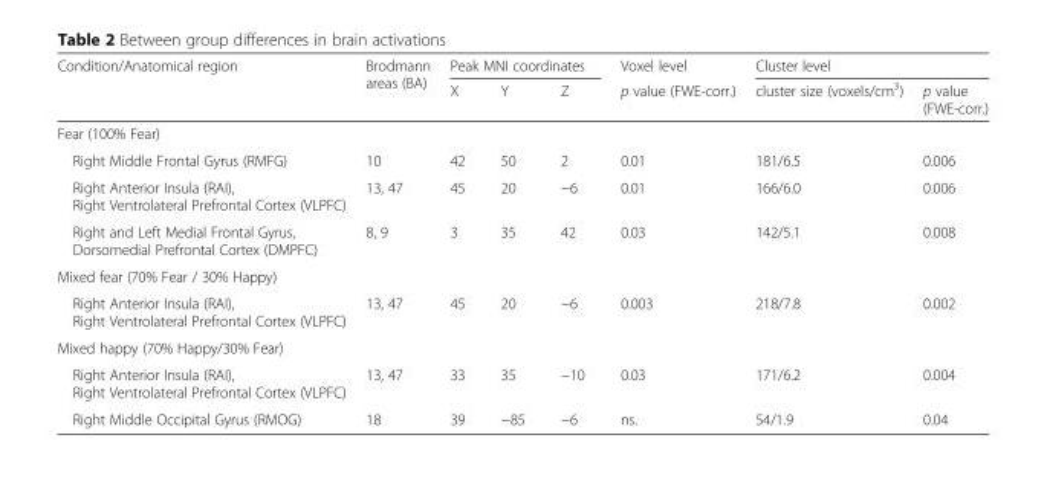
<table><thead><tr><td rowspan="2">Condition/Anatomical region</td><td rowspan="2">Brodmann areas (BA)</td><td colspan="3">Peak MNI coordinates</td><td rowspan="2">Voxel level p value (FWE-corr.)</td><td colspan="2">Cluster level</td></tr><tr><td>X</td><td>Y</td><td>Z</td><td>cluster size (voxels/cm<sup>3</sup>)</td><td>p value (FWE-corr.)</td></tr></thead><tbody><tr><td colspan="8">Fear (100% Fear)</td></tr><tr><td>Right Middle Frontal Gyrus (RMFG)</td><td>10</td><td>42</td><td>50</td><td>2</td><td>0.01</td><td>181/6.5</td><td>0.006</td></tr><tr><td>Right Anterior Insula (RAI), Right Ventrolateral Prefrontal Cortex (VLPFC)</td><td>13, 47</td><td>45</td><td>20</td><td>−6</td><td>0.01</td><td>166/6.0</td><td>0.006</td></tr><tr><td>Right and Left Medial Frontal Gyrus, Dorsomedial Prefrontal Cortex (DMPFC)</td><td>8, 9</td><td>3</td><td>35</td><td>42</td><td>0.03</td><td>142/5.1</td><td>0.008</td></tr><tr><td colspan="8">Mixed fear (70% Fear / 30% Happy)</td></tr><tr><td>Right Anterior Insula (RAI), Right Ventrolateral Prefrontal Cortex (VLPFC)</td><td>13, 47</td><td>45</td><td>20</td><td>−6</td><td>0.003</td><td>218/7.8</td><td>0.002</td></tr><tr><td colspan="8">Mixed happy (70% Happy/30% Fear)</td></tr><tr><td>Right Anterior Insula (RAI), Right Ventrolateral Prefrontal Cortex (VLPFC)</td><td>13, 47</td><td>33</td><td>35</td><td>−10</td><td>0.03</td><td>171/6.2</td><td>0.004</td></tr><tr><td>Right Middle Occipital Gyrus (RMOG)</td><td>18</td><td>39</td><td>−85</td><td>−6</td><td>ns.</td><td>54/1.9</td><td>0.04</td></tr></tbody></table>